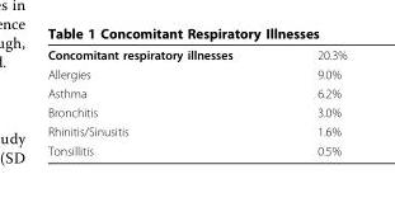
<table><tbody><tr><td>Concomitant respiratory illnesses</td><td>20.3%</td></tr><tr><td>Allergies</td><td>9.0%</td></tr><tr><td>Asthma</td><td>6.2%</td></tr><tr><td>Bronchitis</td><td>3.0%</td></tr><tr><td>Rhinitis/Sinusitis</td><td>1.6%</td></tr><tr><td>Tonsillitis</td><td>0.5%</td></tr></tbody></table>